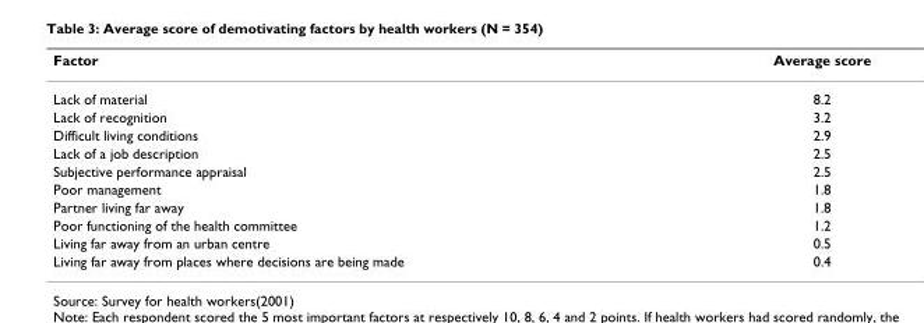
<table><thead><tr><td>Factor</td><td>Average score</td></tr></thead><tbody><tr><td>Lack of material</td><td>8.2</td></tr><tr><td>Lack of recognition</td><td>3.2</td></tr><tr><td>Difficult living conditions</td><td>2.9</td></tr><tr><td>Lack of a job description</td><td>2.5</td></tr><tr><td>Subjective performance appraisal</td><td>2.5</td></tr><tr><td>Poor management</td><td>1.8</td></tr><tr><td>Partner living far away</td><td>1.8</td></tr><tr><td>Poor functioning of the health committee</td><td>1.2</td></tr><tr><td>Living far away from an urban centre</td><td>0.5</td></tr><tr><td>Living far away from places where decisions are being made</td><td>0.4</td></tr></tbody></table>